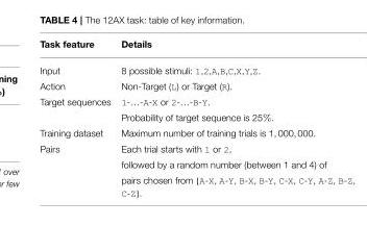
<table><thead><tr><td>Task feature</td><td>Details</td></tr></thead><tbody><tr><td>Input</td><td>8 possible stimuli: 1,2,A,B,C,X,Y,Z.</td></tr><tr><td>Action</td><td>Non-Target (L) or Target (R).</td></tr><tr><td rowspan="2">Target sequences</td><td>1-…-A-X or 2-…-B-Y.</td></tr><tr><td>Probability of target sequence is 25%.</td></tr><tr><td>Training dataset</td><td>Maximum number of training trials is 1, 000, 000.</td></tr><tr><td rowspan="3">Pairs</td><td>Each trial starts with 1 or 2,</td></tr><tr><td>followed by a random number (between 1 and 4) of</td></tr><tr><td>pairs chosen from {A-X, A-Y, B-X, B-Y, C-X, C-Y,</td></tr></tbody></table>